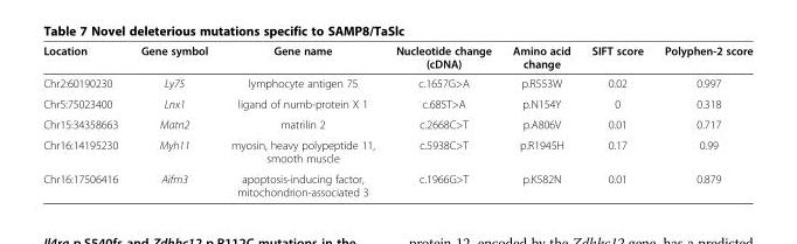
<table><thead><tr><td>Location</td><td>Gene symbol</td><td>Gene name</td><td>Nucleotide change (cDNA)</td><td>Amino acid change</td><td>SIFT score</td><td>Polyphen-2 score</td></tr></thead><tbody><tr><td>Chr2:60190230</td><td>Ly75</td><td>lymphocyte antigen 75</td><td>c.1657G&gt;A</td><td>p.R553W</td><td>0.02</td><td>0.997</td></tr><tr><td>Chr5:75023400</td><td>Lnx1</td><td>ligand of numb-protein X 1</td><td>c.685T&gt;A</td><td>p.N154Y</td><td>0</td><td>0.318</td></tr><tr><td>Chr15:34358663</td><td>Matn2</td><td>matrilin 2</td><td>c.2668C&gt;T</td><td>p.A806V</td><td>0.01</td><td>0.717</td></tr><tr><td>Chr16:14195230</td><td>Myh11</td><td>myosin, heavy polypeptide 11, smooth muscle</td><td>c.5938C&gt;T</td><td>p.R1945H</td><td>0.17</td><td>0.99</td></tr><tr><td>Chr16:17506416</td><td>Aifm3</td><td>apoptosis-inducing factor, mitochondrion-associated 3</td><td>c.1966G&gt;T</td><td>p.K582N</td><td>0.01</td><td>0.879</td></tr></tbody></table>